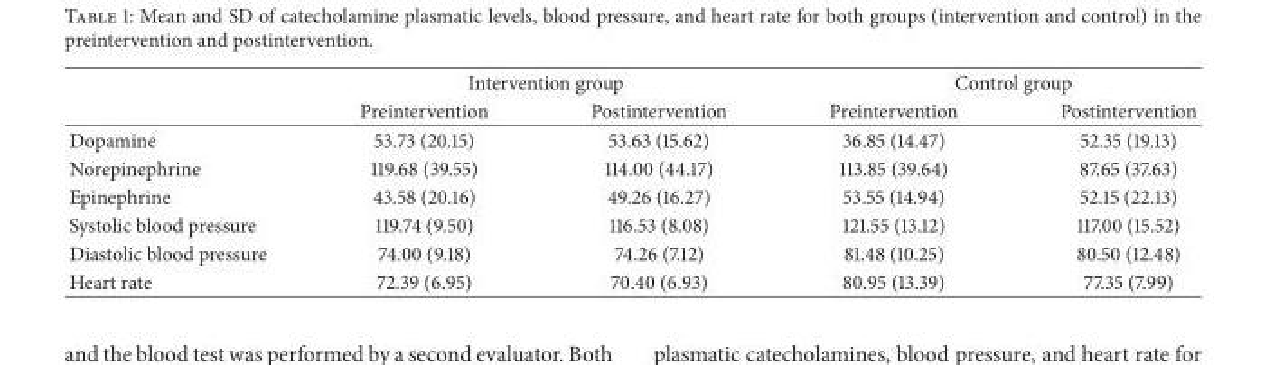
<table><thead><tr><td rowspan="2"></td><td colspan="2">Intervention group</td><td colspan="2">Control group</td></tr><tr><td>Preintervention</td><td>Postintervention</td><td>Preintervention</td><td>Postintervention</td></tr></thead><tbody><tr><td>Dopamine</td><td>53.73 (20.15)</td><td>53.63 (15.62)</td><td>36.85 (14.47)</td><td>52.35 (19.13)</td></tr><tr><td>Norepinephrine</td><td>119.68 (39.55)</td><td>114.00 (44.17)</td><td>113.85 (39.64)</td><td>87.65 (37.63)</td></tr><tr><td>Epinephrine</td><td>43.58 (20.16)</td><td>49.26 (16.27)</td><td>53.55 (14.94)</td><td>52.15 (22.13)</td></tr><tr><td>Systolic blood pressure</td><td>119.74 (9.50)</td><td>116.53 (8.08)</td><td>121.55 (13.12)</td><td>117.00 (15.52)</td></tr><tr><td>Diastolic blood pressure</td><td>74.00 (9.18)</td><td>74.26 (7.12)</td><td>81.48 (10.25)</td><td>80.50 (12.48)</td></tr><tr><td>Heart rate</td><td>72.39 (6.95)</td><td>70.40 (6.93)</td><td>80.95 (13.39)</td><td>77.35 (7.99)</td></tr></tbody></table>